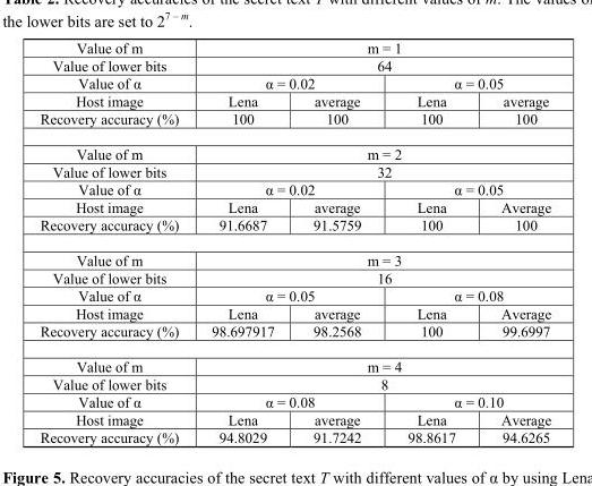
<table><tbody><tr><td>Value of m</td><td colspan="4">m = 1</td></tr><tr><td>Value of lower bits</td><td colspan="4">64</td></tr><tr><td>Value of α</td><td colspan="2">α = 0.02</td><td colspan="2">α = 0.05</td></tr><tr><td>Host image</td><td>Lena</td><td>average</td><td>Lena</td><td>average</td></tr><tr><td>Recovery accuracy (%)</td><td>100</td><td>100</td><td>100</td><td>100</td></tr><tr><td>Value of m</td><td colspan="4">m = 2</td></tr><tr><td>Value of lower bits</td><td colspan="4">32</td></tr><tr><td>Value of α</td><td colspan="2">α = 0.02</td><td colspan="2">α = 0.05</td></tr><tr><td>Host image</td><td>Lena</td><td>average</td><td>Lena</td><td>Average</td></tr><tr><td>Recovery accuracy (%)</td><td>91.6687</td><td>91.5759</td><td>100</td><td>100</td></tr><tr><td>Value of m</td><td colspan="4">m = 3</td></tr><tr><td>Value of lower bits</td><td colspan="4">16</td></tr><tr><td>Value of α</td><td colspan="2">α = 0.05</td><td colspan="2">α = 0.08</td></tr><tr><td>Host image</td><td>Lena</td><td>average</td><td>Lena</td><td>Average</td></tr><tr><td>Recovery accuracy (%)</td><td>98.697917</td><td>98.2568</td><td>100</td><td>99.6997</td></tr><tr><td>Value of m</td><td colspan="4">m = 4</td></tr><tr><td>Value of lower bits</td><td colspan="4">8</td></tr><tr><td>Value of α</td><td colspan="2">α = 0.08</td><td colspan="2">α = 0.10</td></tr><tr><td>Host image</td><td>Lena</td><td>average</td><td>Lena</td><td>Average</td></tr><tr><td>Recovery accuracy (%)</td><td>94.8029</td><td>91.7242</td><td>98.8617</td><td>94.6265</td></tr></tbody></table>